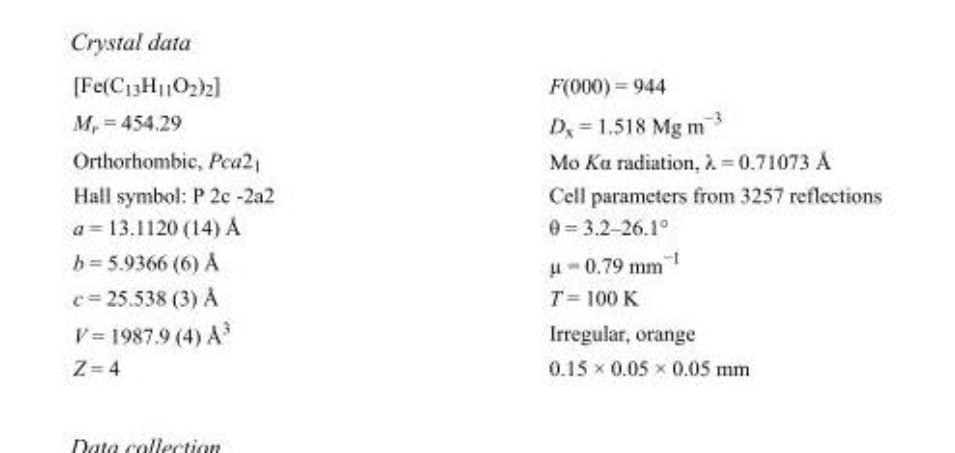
<table><tbody><tr><td>[Fe(C<sub>13</sub>H<sub>11</sub>O<sub>2</sub>)<sub>2</sub>]</td><td>F(000) = 944</td></tr><tr><td>M<sub>r</sub> = 454.29</td><td>D<sub>x</sub> = 1.518 Mg m<sup>−3</sup></td></tr><tr><td>Orthorhombic, Pca2<sub>1</sub></td><td>Mo Kα radiation, λ = 0.71073 Å</td></tr><tr><td>Hall symbol: P 2c -2a2</td><td>Cell parameters from 3257 reflections</td></tr><tr><td>a = 13.1120 (14) Å</td><td>θ = 3.2–26.1°</td></tr><tr><td>b = 5.9366 (6) Å</td><td>µ = 0.79 mm<sup>−1</sup></td></tr><tr><td>c = 25.538 (3) Å</td><td>T = 100 K</td></tr><tr><td>V = 1987.9 (4) Å<sup>3</sup></td><td>Irregular, orange</td></tr><tr><td>Z = 4</td><td>0.15 × 0.05 × 0.05 mm</td></tr></tbody></table>